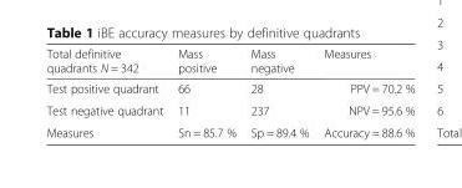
<table><thead><tr><td>Total definitive quadrants N = 342</td><td>Mass positive</td><td>Mass negative</td><td>Measures</td></tr></thead><tbody><tr><td>Test positive quadrant</td><td>66</td><td>28</td><td>PPV = 70.2 %</td></tr><tr><td>Test negative quadrant</td><td>11</td><td>237</td><td>NPV = 95.6 %</td></tr><tr><td>Measures</td><td>Sn = 85.7 %</td><td>Sp = 89.4 %</td><td>Accuracy = 88.6 %</td></tr></tbody></table>